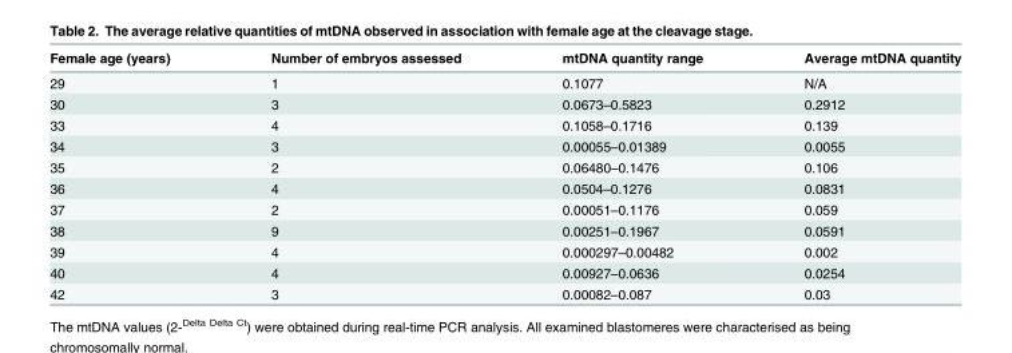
<table><thead><tr><td>Female age (years)</td><td>Number of embryos assessed</td><td>mtDNA quantity range</td><td>Average mtDNA quantity</td></tr></thead><tbody><tr><td>29</td><td>1</td><td>0.1077</td><td>N/A</td></tr><tr><td>30</td><td>3</td><td>0.0673–0.5823</td><td>0.2912</td></tr><tr><td>33</td><td>4</td><td>0.1058–0.1716</td><td>0.139</td></tr><tr><td>34</td><td>3</td><td>0.00055–0.01389</td><td>0.0055</td></tr><tr><td>35</td><td>2</td><td>0.06480–0.1476</td><td>0.106</td></tr><tr><td>36</td><td>4</td><td>0.0504–0.1276</td><td>0.0831</td></tr><tr><td>37</td><td>2</td><td>0.00051–0.1176</td><td>0.059</td></tr><tr><td>38</td><td>9</td><td>0.00251–0.1967</td><td>0.0591</td></tr><tr><td>39</td><td>4</td><td>0.000297–0.00482</td><td>0.002</td></tr><tr><td>40</td><td>4</td><td>0.00927–0.0636</td><td>0.0254</td></tr><tr><td>42</td><td>3</td><td>0.00082–0.087</td><td>0.03</td></tr></tbody></table>